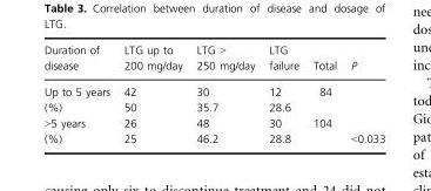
<table><thead><tr><td>Duration of disease</td><td>LTG up to 200 mg/day</td><td>LTG &gt; 250 mg/day</td><td>LTG failure</td><td>Total</td><td>P</td></tr></thead><tbody><tr><td>Up to 5 years</td><td>42</td><td>30</td><td>12</td><td>84</td><td></td></tr><tr><td>(%)</td><td>50</td><td>35.7</td><td>28.6</td><td></td><td></td></tr><tr><td>&gt;5 years</td><td>26</td><td>48</td><td>30</td><td>104</td><td></td></tr><tr><td>(%)</td><td>25</td><td>46.2</td><td>28.8</td><td></td><td>&lt;0.033</td></tr></tbody></table>